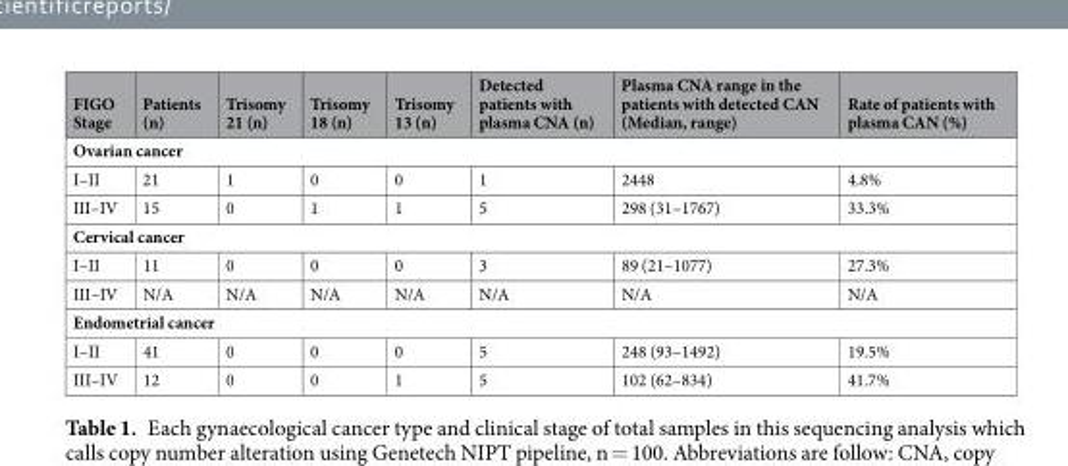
<table><thead><tr><td>FIGO Stage</td><td>Patients (n)</td><td>Trisomy 21 (n)</td><td>Trisomy 18 (n)</td><td>Trisomy 13 (n)</td><td>Detected patients with plasma CNA (n)</td><td>Plasma CNA range in the patients with detected CAN (Median, range)</td><td>Rate of patients with plasma CAN (%)</td></tr></thead><tbody><tr><td colspan="8">Ovarian cancer</td></tr><tr><td>I–II</td><td>21</td><td>1</td><td>0</td><td>0</td><td>1</td><td>2448</td><td>4.8%</td></tr><tr><td>III–IV</td><td>15</td><td>0</td><td>1</td><td>1</td><td>5</td><td>298 (31–1767)</td><td>33.3%</td></tr><tr><td colspan="8">Cervical cancer</td></tr><tr><td>I–II</td><td>11</td><td>0</td><td>0</td><td>0</td><td>3</td><td>89 (21–1077)</td><td>27.3%</td></tr><tr><td>III–IV</td><td>N/A</td><td>N/A</td><td>N/A</td><td>N/A</td><td>N/A</td><td>N/A</td><td>N/A</td></tr><tr><td colspan="8">Endometrial cancer</td></tr><tr><td>I–II</td><td>41</td><td>0</td><td>0</td><td>0</td><td>5</td><td>248 (93–1492)</td><td>19.5%</td></tr><tr><td>III–IV</td><td>12</td><td>0</td><td>0</td><td>1</td><td>5</td><td>102 (62–834)</td><td>41.7%</td></tr></tbody></table>